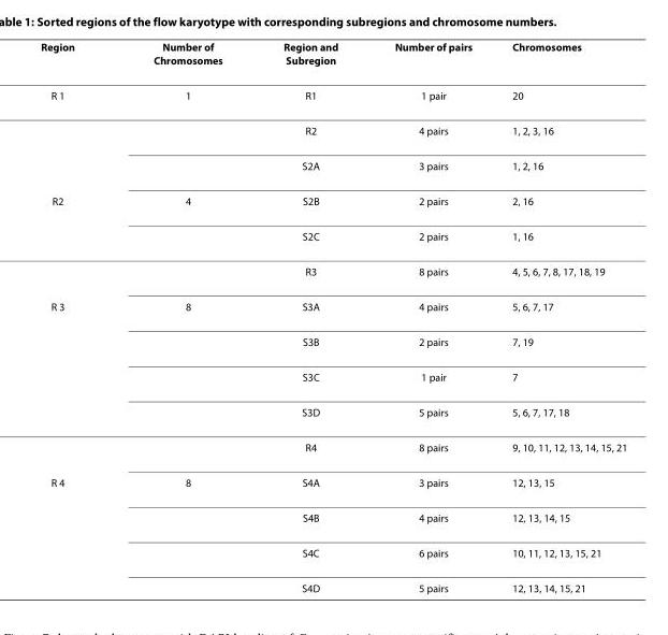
<table><thead><tr><td>Region</td><td>Number of Chromosomes</td><td>Region and Subregion</td><td>Number of pairs</td><td>Chromosomes</td></tr></thead><tbody><tr><td rowspan="3">R 1</td><td>1</td><td>R1</td><td>1 pair</td><td>20</td></tr><tr><td></td><td>R2</td><td>4 pairs</td><td>1, 2, 3, 16</td></tr><tr><td></td><td>S2A</td><td>3 pairs</td><td>1, 2, 16</td></tr><tr><td rowspan="3">R2</td><td>4</td><td>S2B</td><td>2 pairs</td><td>2, 16</td></tr><tr><td></td><td>S2C</td><td>2 pairs</td><td>1, 16</td></tr><tr><td></td><td>R3</td><td>8 pairs</td><td>4, 5, 6, 7, 8, 17, 18, 19</td></tr><tr><td rowspan="5">R 3</td><td>8</td><td>S3A</td><td>4 pairs</td><td>5, 6, 7, 17</td></tr><tr><td></td><td>S3B</td><td>2 pairs</td><td>7, 19</td></tr><tr><td></td><td>S3C</td><td>1 pair</td><td>7</td></tr><tr><td></td><td>S3D</td><td>5 pairs</td><td>5, 6, 7, 17, 18</td></tr><tr><td></td><td>R4</td><td>8 pairs</td><td>9, 10, 11, 12, 13, 14, 15, 21</td></tr><tr><td rowspan="4">R 4</td><td>8</td><td>S4A</td><td>3 pairs</td><td>12, 13, 15</td></tr><tr><td></td><td>S4B</td><td>4 pairs</td><td>12, 13, 14, 15</td></tr><tr><td></td><td>S4C</td><td>6 pairs</td><td>10, 11, 12, 13, 15, 21</td></tr><tr><td></td><td>S4D</td><td>5 pairs</td><td>12, 13, 14, 15, 21</td></tr></tbody></table>